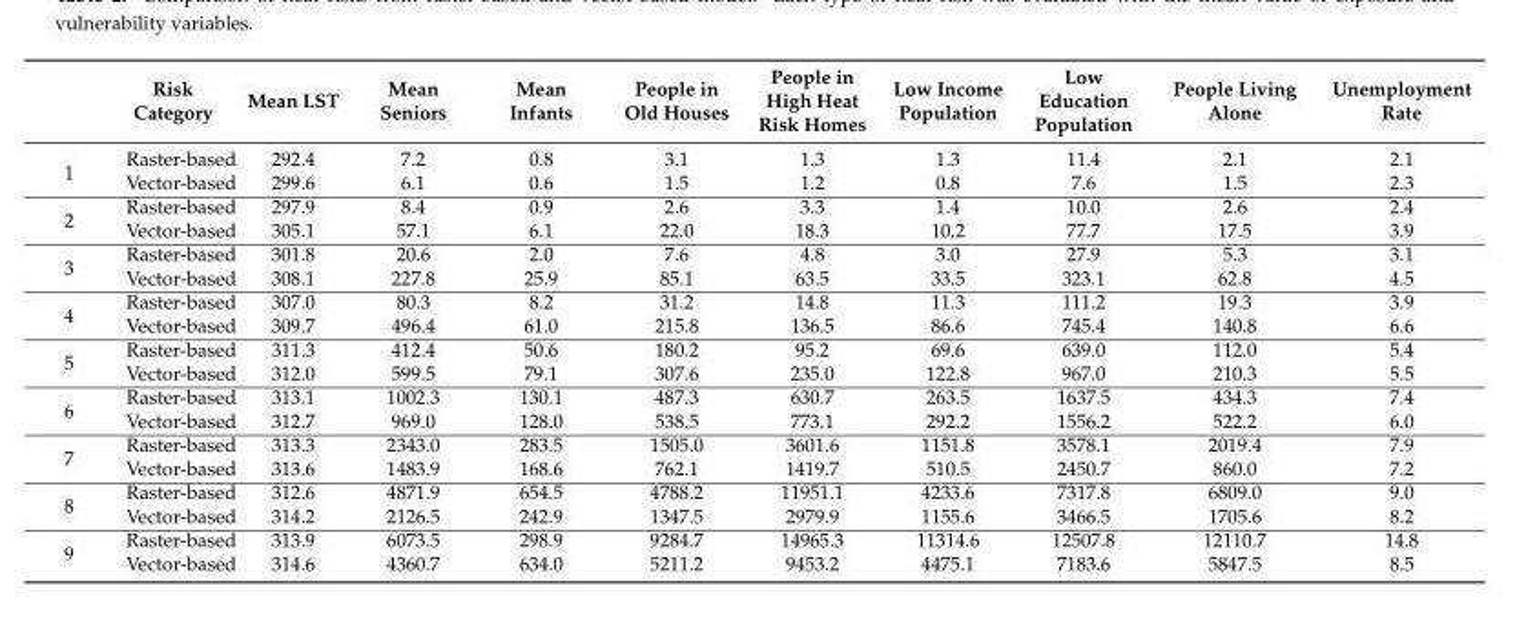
<table><thead><tr><td></td><td>Risk Category</td><td>Mean LST</td><td>Mean Seniors</td><td>Mean Infants</td><td>People in Old Houses</td><td>People in High Heat Risk Homes</td><td>Low Income Population</td><td>Low Education Population</td><td>People Living Alone</td><td>Unemployment Rate</td></tr></thead><tbody><tr><td rowspan="2">1</td><td>Raster-based</td><td>292.4</td><td>7.2</td><td>0.8</td><td>3.1</td><td>1.3</td><td>1.3</td><td>11.4</td><td>2.1</td><td>2.1</td></tr><tr><td>Vector-based</td><td>299.6</td><td>6.1</td><td>0.6</td><td>1.5</td><td>1.2</td><td>0.8</td><td>7.6</td><td>1.5</td><td>2.3</td></tr><tr><td rowspan="2">2</td><td>Raster-based</td><td>297.9</td><td>8.4</td><td>0.9</td><td>2.6</td><td>3.3</td><td>1.4</td><td>10.0</td><td>2.6</td><td>2.4</td></tr><tr><td>Vector-based</td><td>305.1</td><td>57.1</td><td>6.1</td><td>22.0</td><td>18.3</td><td>10.2</td><td>77.7</td><td>17.5</td><td>3.9</td></tr><tr><td rowspan="2">3</td><td>Raster-based</td><td>301.8</td><td>20.6</td><td>2.0</td><td>7.6</td><td>4.8</td><td>3.0</td><td>27.9</td><td>5.3</td><td>3.1</td></tr><tr><td>Vector-based</td><td>308.1</td><td>227.8</td><td>25.9</td><td>85.1</td><td>63.5</td><td>33.5</td><td>323.1</td><td>62.8</td><td>4.5</td></tr><tr><td rowspan="2">4</td><td>Raster-based</td><td>307.0</td><td>80.3</td><td>8.2</td><td>31.2</td><td>14.8</td><td>11.3</td><td>111.2</td><td>19.3</td><td>3.9</td></tr><tr><td>Vector-based</td><td>309.7</td><td>496.4</td><td>61.0</td><td>215.8</td><td>136.5</td><td>86.6</td><td>745.4</td><td>140.8</td><td>6.6</td></tr><tr><td rowspan="2">5</td><td>Raster-based</td><td>311.3</td><td>412.4</td><td>50.6</td><td>180.2</td><td>95.2</td><td>69.6</td><td>639.0</td><td>112.0</td><td>5.4</td></tr><tr><td>Vector-based</td><td>312.0</td><td>599.5</td><td>79.1</td><td>307.6</td><td>235.0</td><td>122.8</td><td>967.0</td><td>210.3</td><td>5.5</td></tr><tr><td rowspan="2">6</td><td>Raster-based</td><td>313.1</td><td>1002.3</td><td>130.1</td><td>487.3</td><td>630.7</td><td>263.5</td><td>1637.5</td><td>434.3</td><td>7.4</td></tr><tr><td>Vector-based</td><td>312.7</td><td>969.0</td><td>128.0</td><td>538.5</td><td>773.1</td><td>292.2</td><td>1556.2</td><td>522.2</td><td>6.0</td></tr><tr><td rowspan="2">7</td><td>Raster-based</td><td>313.3</td><td>2343.0</td><td>283.5</td><td>1505.0</td><td>3601.6</td><td>1151.8</td><td>3578.1</td><td>2019.4</td><td>7.9</td></tr><tr><td>Vector-based</td><td>313.6</td><td>1483.9</td><td>168.6</td><td>762.1</td><td>1419.7</td><td>510.5</td><td>2450.7</td><td>860.0</td><td>7.2</td></tr><tr><td rowspan="2">8</td><td>Raster-based</td><td>312.6</td><td>4871.9</td><td>654.5</td><td>4788.2</td><td>11951.1</td><td>4233.6</td><td>7317.8</td><td>6809.0</td><td>9.0</td></tr><tr><td>Vector-based</td><td>314.2</td><td>2126.5</td><td>242.9</td><td>1347.5</td><td>2979.9</td><td>1155.6</td><td>3466.5</td><td>1705.6</td><td>8.2</td></tr><tr><td rowspan="2">9</td><td>Raster-based</td><td>313.9</td><td>6073.5</td><td>298.9</td><td>9284.7</td><td>14965.3</td><td>11314.6</td><td>12507.8</td><td>12110.7</td><td>14.8</td></tr><tr><td>Vector-based</td><td>314.6</td><td>4360.7</td><td>634.0</td><td>5211.2</td><td>9453.2</td><td>4475.1</td><td>7183.6</td><td>5847.5</td><td>8.5</td></tr></tbody></table>